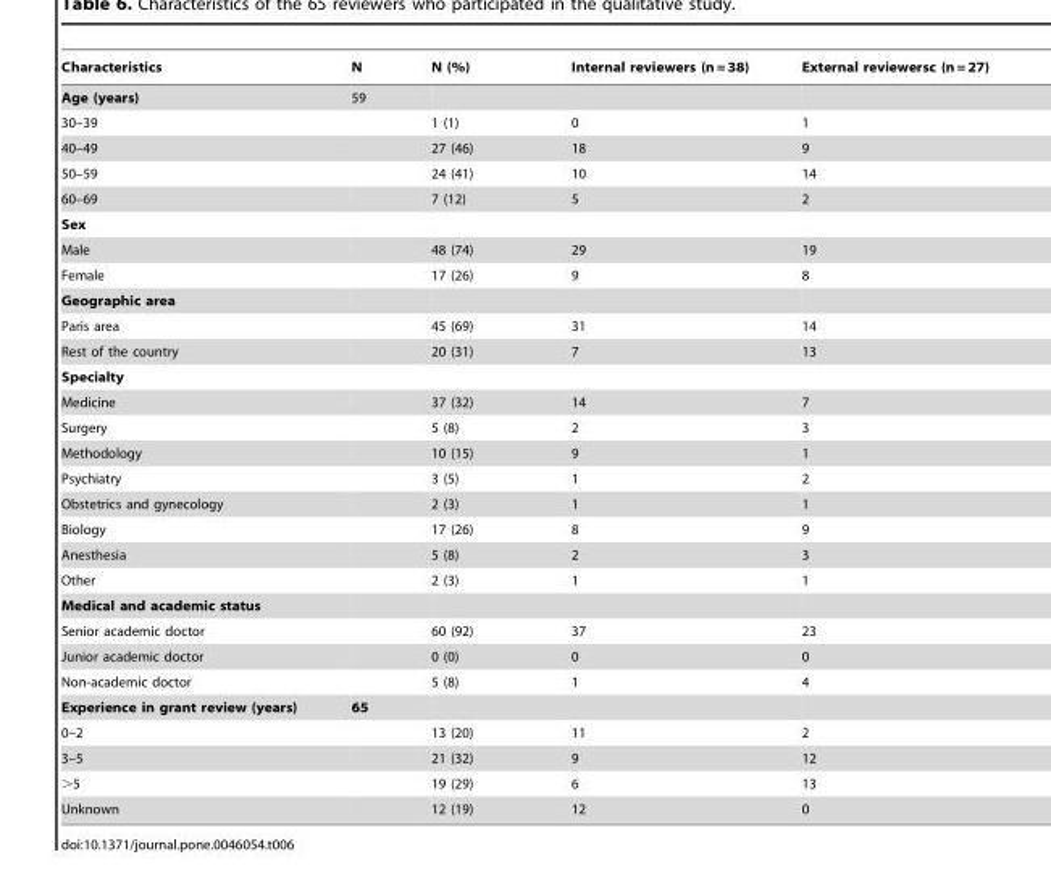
<table><thead><tr><td>Characteristics</td><td>N</td><td>N (%)</td><td>Internal reviewers (n = 38)</td><td>External reviewersc (n = 27)</td></tr></thead><tbody><tr><td>Age (years)</td><td>59</td><td></td><td></td><td></td></tr><tr><td>30–39</td><td></td><td>1 (1)</td><td>0</td><td>1</td></tr><tr><td>40–49</td><td></td><td>27 (46)</td><td>18</td><td>9</td></tr><tr><td>50–59</td><td></td><td>24 (41)</td><td>10</td><td>14</td></tr><tr><td>60–69</td><td></td><td>7 (12)</td><td>5</td><td>2</td></tr><tr><td colspan="5">Sex</td></tr><tr><td>Male</td><td></td><td>48 (74)</td><td>29</td><td>19</td></tr><tr><td>Female</td><td></td><td>17 (26)</td><td>9</td><td>8</td></tr><tr><td colspan="5">Geographic area</td></tr><tr><td>Paris area</td><td></td><td>45 (69)</td><td>31</td><td>14</td></tr><tr><td>Rest of the country</td><td></td><td>20 (31)</td><td>7</td><td>13</td></tr><tr><td colspan="5">Specialty</td></tr><tr><td>Medicine</td><td></td><td>37 (32)</td><td>14</td><td>7</td></tr><tr><td>Surgery</td><td></td><td>5 (8)</td><td>2</td><td>3</td></tr><tr><td>Methodology</td><td></td><td>10 (15)</td><td>9</td><td>1</td></tr><tr><td>Psychiatry</td><td></td><td>3 (5)</td><td>1</td><td>2</td></tr><tr><td>Obstetrics and gynecology</td><td></td><td>2 (3)</td><td>1</td><td>1</td></tr><tr><td>Biology</td><td></td><td>17 (26)</td><td>8</td><td>9</td></tr><tr><td>Anesthesia</td><td></td><td>5 (8)</td><td>2</td><td>3</td></tr><tr><td>Other</td><td></td><td>2 (3)</td><td>1</td><td>1</td></tr><tr><td colspan="5">Medical and academic status</td></tr><tr><td>Senior academic doctor</td><td></td><td>60 (92)</td><td>37</td><td>23</td></tr><tr><td>Junior academic doctor</td><td></td><td>0 (0)</td><td>0</td><td>0</td></tr><tr><td>Non-academic doctor</td><td></td><td>5 (8)</td><td>1</td><td>4</td></tr><tr><td>Experience in grant review (years)</td><td>65</td><td></td><td></td><td></td></tr><tr><td>0–2</td><td></td><td>13 (20)</td><td>11</td><td>2</td></tr><tr><td>3–5</td><td></td><td>21 (32)</td><td>9</td><td>12</td></tr><tr><td>&gt;5</td><td></td><td>19 (29)</td><td>6</td><td>13</td></tr><tr><td>Unknown</td><td></td><td>12 (19)</td><td>12</td><td>0</td></tr></tbody></table>